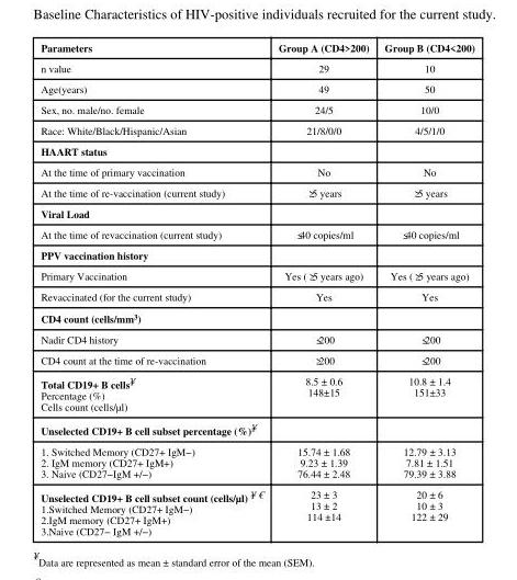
<table><thead><tr><td>Parameters</td><td>Group A (CD4&gt;200)</td><td>Group B (CD4&lt;200)</td></tr></thead><tbody><tr><td>n value</td><td>29</td><td>10</td></tr><tr><td>Age(years)</td><td>49</td><td>50</td></tr><tr><td>Sex, no. male/no. female</td><td>24/5</td><td>10/0</td></tr><tr><td>Race: White/Black/Hispanic/Asian</td><td>21/8/0/0</td><td>4/5/1/0</td></tr><tr><td colspan="3">HAART status</td></tr><tr><td>At the time of primary vaccination</td><td>No</td><td>No</td></tr><tr><td>At the time of re-vaccination (current study)</td><td>≥5 years</td><td>≥5 years</td></tr><tr><td colspan="3">Viral Load</td></tr><tr><td>At the time of revaccination (current study)</td><td>≤40 copies/ml</td><td>≤40 copies/ml</td></tr><tr><td colspan="3">PPV vaccination history</td></tr><tr><td>Primary Vaccination</td><td>Yes (≥5 years ago)</td><td>Yes (≥5 years ago)</td></tr><tr><td>Revaccinated (for the current study)</td><td>Yes</td><td>Yes</td></tr><tr><td colspan="3">CD4 count (cells/mm<sup>3</sup>)</td></tr><tr><td>Nadir CD4 history</td><td>≤200</td><td>≤200</td></tr><tr><td>CD4 count at the time of re-vaccination</td><td>≥200</td><td>≤200</td></tr><tr><td>Total CD19+ B cells¥ Percentage (%) Cells count (cells/µl)</td><td>8.5 ± 0.6 148±15</td><td>10.8 ± 1.4 151±33</td></tr><tr><td colspan="3">Unselected CD19+ B cell subset percentage (%)¥</td></tr><tr><td>1. Switched Memory (CD27+ IgM−) 2. IgM memory (CD27+ IgM+) 3. Naive (CD27−IgM +/−)</td><td>15.74 ± 1.68 9.23 ± 1.39 76.44 ± 2.48</td><td>12.79 ± 3.13 7.81 ± 1.51 79.39 ± 3.88</td></tr><tr><td>Unselected CD19+ B cell subset count (cells/µl) ¥ € 1.Switched Memory (CD27+ IgM−) 2.IgM memory (CD27+ IgM+) 3.Naive (CD27− IgM +/−)</td><td>23 ± 3 13 ± 2 114 ±14</td><td>20 ± 6 10 ± 3 122 ± 29</td></tr></tbody></table>